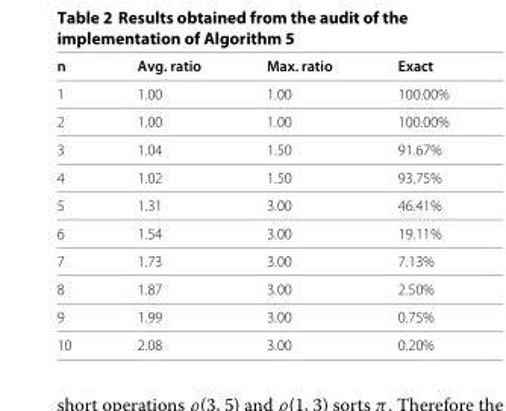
<table><thead><tr><td>n</td><td>Avg. ratio</td><td>Max. ratio</td><td>Exact</td></tr></thead><tbody><tr><td>1</td><td>1.00</td><td>1.00</td><td>100.00%</td></tr><tr><td>2</td><td>1.00</td><td>1.00</td><td>100.00%</td></tr><tr><td>3</td><td>1.04</td><td>1.50</td><td>91.67%</td></tr><tr><td>4</td><td>1.02</td><td>1.50</td><td>93.75%</td></tr><tr><td>5</td><td>1.31</td><td>3.00</td><td>46.41%</td></tr><tr><td>6</td><td>1.54</td><td>3.00</td><td>19.11%</td></tr><tr><td>7</td><td>1.73</td><td>3.00</td><td>7.13%</td></tr><tr><td>8</td><td>1.87</td><td>3.00</td><td>2.50%</td></tr><tr><td>9</td><td>1.99</td><td>3.00</td><td>0.75%</td></tr><tr><td>10</td><td>2.08</td><td>3.00</td><td>0.20%</td></tr></tbody></table>